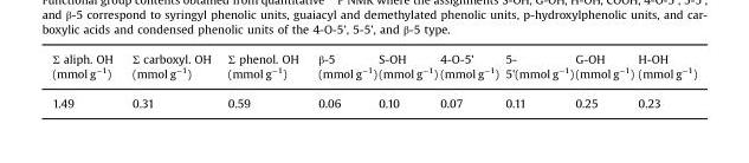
<table><thead><tr><td>Σ aliph. OH (mmol g<sup>−1</sup>)</td><td>Σ carboxyl. OH (mmol g<sup>−1</sup>)</td><td>Σ phenol. OH (mmol g<sup>−1</sup>)</td><td>β-5 (mmol g<sup>−1</sup>)</td><td>S-OH (mmol g<sup>−1</sup>)</td><td>4-O-5&#x27; (mmol g<sup>−1</sup>)</td><td>5- 5&#x27;(mmol g<sup>−1</sup>)</td><td>G-OH (mmol g<sup>−1</sup>)</td><td>H-OH (mmol g<sup>−1</sup>)</td></tr></thead><tbody><tr><td>1.49</td><td>0.31</td><td>0.59</td><td>0.06</td><td>0.10</td><td>0.07</td><td>0.11</td><td>0.25</td><td>0.23</td></tr></tbody></table>